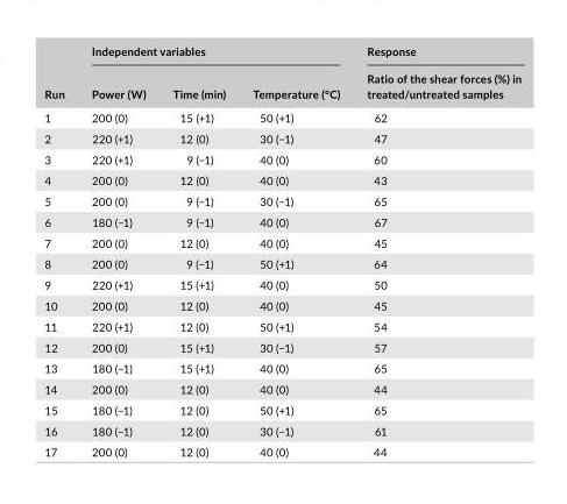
<table><thead><tr><td rowspan="2">Run</td><td colspan="3">Independent variables</td><td rowspan="2">Response Ratio of the shear forces (%) in treated/untreated samples</td></tr><tr><td>Power (W)</td><td>Time (min)</td><td>Temperature (°C)</td></tr></thead><tbody><tr><td>1</td><td>200 (0)</td><td>15 (+1)</td><td>50 (+1)</td><td>62</td></tr><tr><td>2</td><td>220 (+1)</td><td>12 (0)</td><td>30 (−1)</td><td>47</td></tr><tr><td>3</td><td>220 (+1)</td><td>9 (−1)</td><td>40 (0)</td><td>60</td></tr><tr><td>4</td><td>200 (0)</td><td>12 (0)</td><td>40 (0)</td><td>43</td></tr><tr><td>5</td><td>200 (0)</td><td>9 (−1)</td><td>30 (−1)</td><td>65</td></tr><tr><td>6</td><td>180 (−1)</td><td>9 (−1)</td><td>40 (0)</td><td>67</td></tr><tr><td>7</td><td>200 (0)</td><td>12 (0)</td><td>40 (0)</td><td>45</td></tr><tr><td>8</td><td>200 (0)</td><td>9 (−1)</td><td>50 (+1)</td><td>64</td></tr><tr><td>9</td><td>220 (+1)</td><td>15 (+1)</td><td>40 (0)</td><td>50</td></tr><tr><td>10</td><td>200 (0)</td><td>12 (0)</td><td>40 (0)</td><td>45</td></tr><tr><td>11</td><td>220 (+1)</td><td>12 (0)</td><td>50 (+1)</td><td>54</td></tr><tr><td>12</td><td>200 (0)</td><td>15 (+1)</td><td>30 (−1)</td><td>57</td></tr><tr><td>13</td><td>180 (−1)</td><td>15 (+1)</td><td>40 (0)</td><td>65</td></tr><tr><td>14</td><td>200 (0)</td><td>12 (0)</td><td>40 (0)</td><td>44</td></tr><tr><td>15</td><td>180 (−1)</td><td>12 (0)</td><td>50 (+1)</td><td>65</td></tr><tr><td>16</td><td>180 (−1)</td><td>12 (0)</td><td>30 (−1)</td><td>61</td></tr><tr><td>17</td><td>200 (0)</td><td>12 (0)</td><td>40 (0)</td><td>44</td></tr></tbody></table>